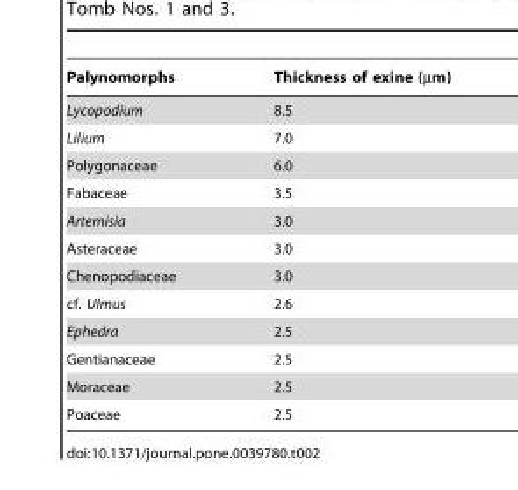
<table><thead><tr><td>Palynomorphs</td><td>Thickness of exine (µm)</td></tr></thead><tbody><tr><td>Lycopodium</td><td>8.5</td></tr><tr><td>Lilium</td><td>7.0</td></tr><tr><td>Polygonaceae</td><td>6.0</td></tr><tr><td>Fabaceae</td><td>3.5</td></tr><tr><td>Artemisia</td><td>3.0</td></tr><tr><td>Asteraceae</td><td>3.0</td></tr><tr><td>Chenopodiaceae</td><td>3.0</td></tr><tr><td>cf. Ulmus</td><td>2.6</td></tr><tr><td>Ephedra</td><td>2.5</td></tr><tr><td>Gentianaceae</td><td>2.5</td></tr><tr><td>Moraceae</td><td>2.5</td></tr><tr><td>Poaceae</td><td>2.5</td></tr></tbody></table>